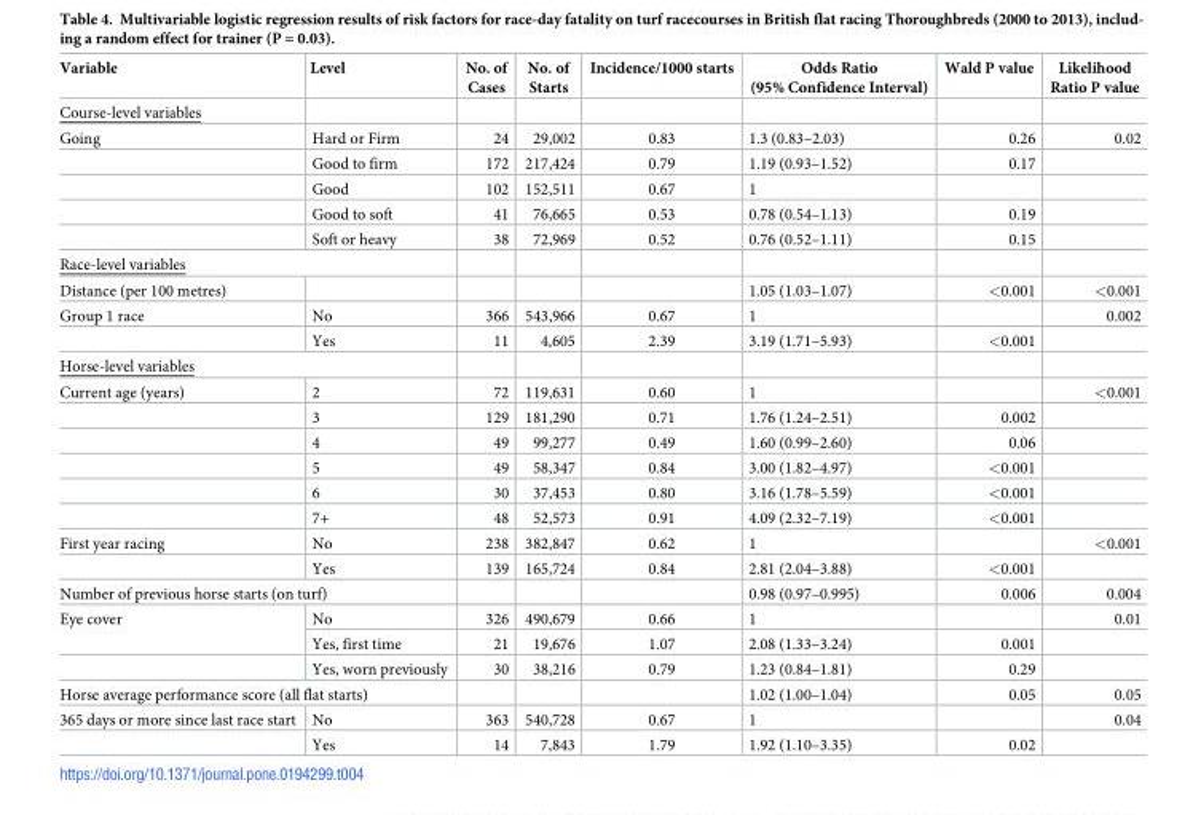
<table><thead><tr><td>Variable</td><td>Level</td><td>No. of Cases</td><td>No. of Starts</td><td>Incidence/1000 starts</td><td>Odds Ratio (95% Confidence Interval)</td><td>Wald P value</td><td>Likelihood Ratio P value</td></tr></thead><tbody><tr><td colspan="8">Course-level variables</td></tr><tr><td rowspan="5">Going</td><td>Hard or Firm</td><td>24</td><td>29,002</td><td>0.83</td><td>1.3 (0.83–2.03)</td><td>0.26</td><td>0.02</td></tr><tr><td>Good to firm</td><td>172</td><td>217,424</td><td>0.79</td><td>1.19 (0.93–1.52)</td><td>0.17</td><td></td></tr><tr><td>Good</td><td>102</td><td>152,511</td><td>0.67</td><td>1</td><td></td><td></td></tr><tr><td>Good to soft</td><td>41</td><td>76,665</td><td>0.53</td><td>0.78 (0.54–1.13)</td><td>0.19</td><td></td></tr><tr><td>Soft or heavy</td><td>38</td><td>72,969</td><td>0.52</td><td>0.76 (0.52–1.11)</td><td>0.15</td><td></td></tr><tr><td colspan="8">Race-level variables</td></tr><tr><td>Distance (per 100 metres)</td><td></td><td></td><td></td><td></td><td>1.05 (1.03–1.07)</td><td>&lt;0.001</td><td>&lt;0.001</td></tr><tr><td rowspan="2">Group 1 race</td><td>No</td><td>366</td><td>543,966</td><td>0.67</td><td>1</td><td></td><td>0.002</td></tr><tr><td>Yes</td><td>11</td><td>4,605</td><td>2.39</td><td>3.19 (1.71–5.93)</td><td>&lt;0.001</td><td></td></tr><tr><td colspan="8">Horse-level variables</td></tr><tr><td rowspan="6">Current age (years)</td><td>2</td><td>72</td><td>119,631</td><td>0.60</td><td>1</td><td></td><td>&lt;0.001</td></tr><tr><td>3</td><td>129</td><td>181,290</td><td>0.71</td><td>1.76 (1.24–2.51)</td><td>0.002</td><td></td></tr><tr><td>4</td><td>49</td><td>99,277</td><td>0.49</td><td>1.60 (0.99–2.60)</td><td>0.06</td><td></td></tr><tr><td>5</td><td>49</td><td>58,347</td><td>0.84</td><td>3.00 (1.82–4.97)</td><td>&lt;0.001</td><td></td></tr><tr><td>6</td><td>30</td><td>37,453</td><td>0.80</td><td>3.16 (1.78–5.59)</td><td>&lt;0.001</td><td></td></tr><tr><td>7+</td><td>48</td><td>52,573</td><td>0.91</td><td>4.09 (2.32–7.19)</td><td>&lt;0.001</td><td></td></tr><tr><td rowspan="2">First year racing</td><td>No</td><td>238</td><td>382,847</td><td>0.62</td><td>1</td><td></td><td>&lt;0.001</td></tr><tr><td>Yes</td><td>139</td><td>165,724</td><td>0.84</td><td>2.81 (2.04–3.88)</td><td>&lt;0.001</td><td></td></tr><tr><td colspan="2">Number of previous horse starts (on turf)</td><td></td><td></td><td></td><td>0.98 (0.97–0.995)</td><td>0.006</td><td>0.004</td></tr><tr><td rowspan="3">Eye cover</td><td>No</td><td>326</td><td>490,679</td><td>0.66</td><td>1</td><td></td><td>0.01</td></tr><tr><td>Yes, first time</td><td>21</td><td>19,676</td><td>1.07</td><td>2.08 (1.33–3.24)</td><td>0.001</td><td></td></tr><tr><td>Yes, worn previously</td><td>30</td><td>38,216</td><td>0.79</td><td>1.23 (0.84–1.81)</td><td>0.29</td><td></td></tr><tr><td colspan="2">Horse average performance score (all flat starts)</td><td></td><td></td><td></td><td>1.02 (1.00–1.04)</td><td>0.05</td><td>0.05</td></tr><tr><td rowspan="2">365 days or more since last race start</td><td>No</td><td>363</td><td>540,728</td><td>0.67</td><td>1</td><td></td><td>0.04</td></tr><tr><td>Yes</td><td>14</td><td>7,843</td><td>1.79</td><td>1.92 (1.10–3.35)</td><td>0.02</td><td></td></tr></tbody></table>